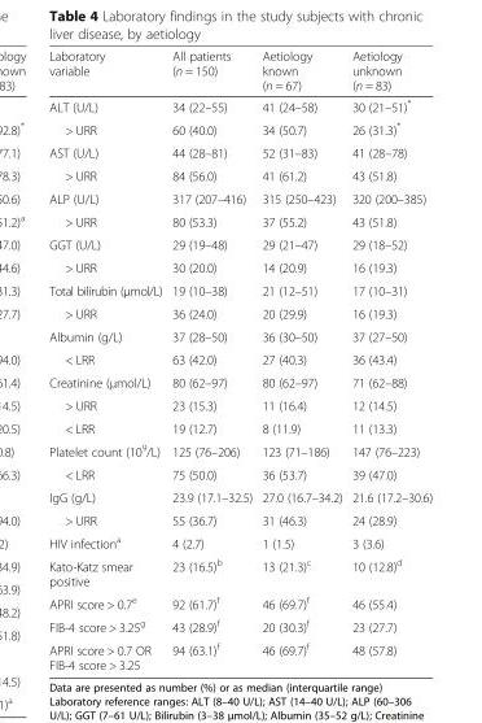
<table><thead><tr><td>Laboratory variable</td><td>All patients (n = 150)</td><td>Aetiology known (n = 67)</td><td>Aetiology unknown (n = 83)</td></tr></thead><tbody><tr><td>ALT (U/L)</td><td>34 (22–55)</td><td>41 (24–58)</td><td>30 (21–51)*</td></tr><tr><td>&gt; URR</td><td>60 (40.0)</td><td>34 (50.7)</td><td>26 (31.3)*</td></tr><tr><td>AST (U/L)</td><td>44 (28–81)</td><td>52 (31–83)</td><td>41 (28–78)</td></tr><tr><td>&gt; URR</td><td>84 (56.0)</td><td>41 (61.2)</td><td>43 (51.8)</td></tr><tr><td>ALP (U/L)</td><td>317 (207–416)</td><td>315 (250–423)</td><td>320 (200–385)</td></tr><tr><td>&gt; URR</td><td>80 (53.3)</td><td>37 (55.2)</td><td>43 (51.8)</td></tr><tr><td>GGT (U/L)</td><td>29 (19–48)</td><td>29 (21–47)</td><td>29 (18–52)</td></tr><tr><td>&gt; URR</td><td>30 (20.0)</td><td>14 (20.9)</td><td>16 (19.3)</td></tr><tr><td>Total bilirubin (μmol/L)</td><td>19 (10–38)</td><td>21 (12–51)</td><td>17 (10–31)</td></tr><tr><td>&gt; URR</td><td>36 (24.0)</td><td>20 (29.9)</td><td>16 (19.3)</td></tr><tr><td>Albumin (g/L)</td><td>37 (28–50)</td><td>36 (30–50)</td><td>37 (27–50)</td></tr><tr><td>&lt; LRR</td><td>63 (42.0)</td><td>27 (40.3)</td><td>36 (43.4)</td></tr><tr><td>Creatinine (μmol/L)</td><td>80 (62–97)</td><td>80 (62–97)</td><td>71 (62–88)</td></tr><tr><td>&gt; URR</td><td>23 (15.3)</td><td>11 (16.4)</td><td>12 (14.5)</td></tr><tr><td>&lt; LRR</td><td>19 (12.7)</td><td>8 (11.9)</td><td>11 (13.3)</td></tr><tr><td>Platelet count (10<sup>9</sup>/L)</td><td>125 (76–206)</td><td>123 (71–186)</td><td>147 (76–223)</td></tr><tr><td>&lt; LRR</td><td>75 (50.0)</td><td>36 (53.7)</td><td>39 (47.0)</td></tr><tr><td>IgG (g/L)</td><td>23.9 (17.1–32.5)</td><td>27.0 (16.7–34.2)</td><td>21.6 (17.2–30.6)</td></tr><tr><td>&gt; URR</td><td>55 (36.7)</td><td>31 (46.3)</td><td>24 (28.9)</td></tr><tr><td>HIV infection<sup>a</sup></td><td>4 (2.7)</td><td>1 (1.5)</td><td>3 (3.6)</td></tr><tr><td>Kato-Katz smear positive</td><td>23 (16.5)<sup>b</sup></td><td>13 (21.3)<sup>c</sup></td><td>10 (12.8)<sup>d</sup></td></tr><tr><td>APRI score &gt; 0.7<sup>e</sup></td><td>92 (61.7)<sup>f</sup></td><td>46 (69.7)<sup>f</sup></td><td>46 (55.4)</td></tr><tr><td>FIB-4 score &gt; 3.25<sup>g</sup></td><td>43 (28.9)<sup>f</sup></td><td>20 (30.3)<sup>f</sup></td><td>23 (27.7)</td></tr><tr><td>APRI score &gt; 0.7 OR FIB-4 score &gt; 3.25</td><td>94 (63.1)<sup>f</sup></td><td>46 (69.7)<sup>f</sup></td><td>48 (57.8)</td></tr></tbody></table>